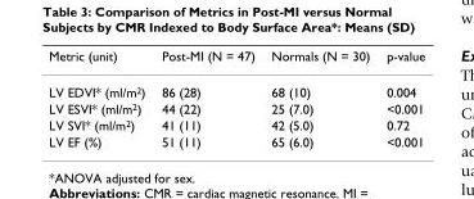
<table><thead><tr><td>Metric (unit)</td><td>Post-MI (N = 47)</td><td>Normals (N = 30)</td><td>p-value</td></tr></thead><tbody><tr><td>LV EDVI* (ml/m<sup>2</sup>)</td><td>86 (28)</td><td>68 (10)</td><td>0.004</td></tr><tr><td>LV ESVI* (ml/m<sup>2</sup>)</td><td>44 (22)</td><td>25 (7.0)</td><td>&lt;0.001</td></tr><tr><td>LV SVI* (ml/m<sup>2</sup>)</td><td>41 (11)</td><td>42 (5.0)</td><td>0.72</td></tr><tr><td>LV EF (%)</td><td>51 (11)</td><td>65 (6.0)</td><td>&lt;0.001</td></tr></tbody></table>